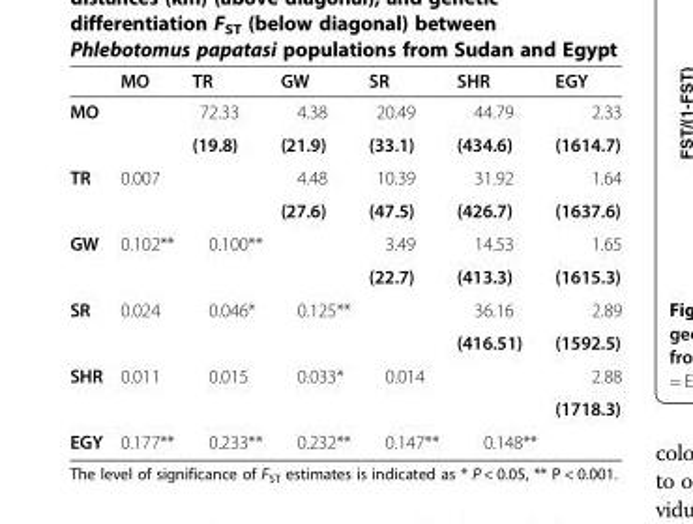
<table><thead><tr><td></td><td>MO</td><td>TR</td><td>GW</td><td>SR</td><td>SHR</td><td>EGY</td></tr></thead><tbody><tr><td rowspan="2">MO</td><td></td><td>72.33</td><td>4.38</td><td>20.49</td><td>44.79</td><td>2.33</td></tr><tr><td></td><td>(19.8)</td><td>(21.9)</td><td>(33.1)</td><td>(434.6)</td><td>(1614.7)</td></tr><tr><td rowspan="2">TR</td><td>0.007</td><td></td><td>4.48</td><td>10.39</td><td>31.92</td><td>1.64</td></tr><tr><td></td><td></td><td>(27.6)</td><td>(47.5)</td><td>(426.7)</td><td>(1637.6)</td></tr><tr><td rowspan="2">GW</td><td>0.102**</td><td>0.100**</td><td></td><td>3.49</td><td>14.53</td><td>1.65</td></tr><tr><td></td><td></td><td></td><td>(22.7)</td><td>(413.3)</td><td>(1615.3)</td></tr><tr><td rowspan="2">SR</td><td>0.024</td><td>0.046*</td><td>0.125**</td><td></td><td>36.16</td><td>2.89</td></tr><tr><td></td><td></td><td></td><td></td><td>(416.51)</td><td>(1592.5)</td></tr><tr><td rowspan="2">SHR</td><td>0.011</td><td>0.015</td><td>0.033*</td><td>0.014</td><td></td><td>2.88</td></tr><tr><td></td><td></td><td></td><td></td><td></td><td>(1718.3)</td></tr><tr><td>EGY</td><td>0.177**</td><td>0.233**</td><td>0.232**</td><td>0.147**</td><td>0.148**</td><td></td></tr></tbody></table>